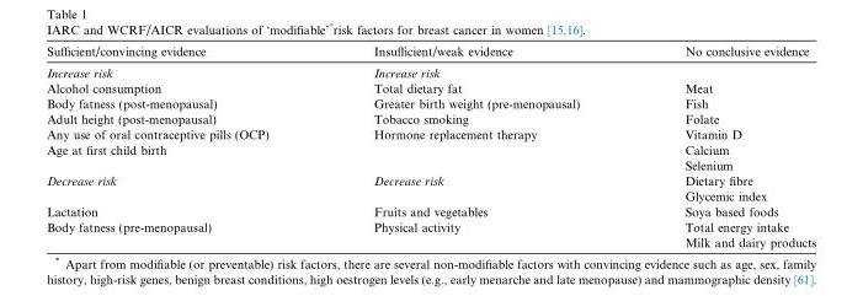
<table><thead><tr><td>Sufficient/convincing evidence</td><td>Insufficient/weak evidence</td><td>No conclusive evidence</td></tr></thead><tbody><tr><td>Increase risk</td><td>Increase risk</td><td></td></tr><tr><td>Alcohol consumption</td><td>Total dietary fat</td><td>Meat</td></tr><tr><td>Body fatness (post-menopausal)</td><td>Greater birth weight (pre-menopausal)</td><td>Fish</td></tr><tr><td>Adult height (post-menopausal)</td><td>Tobacco smoking</td><td>Folate</td></tr><tr><td>Any use of oral contraceptive pills (OCP)</td><td>Hormone replacement therapy</td><td>Vitamin D</td></tr><tr><td rowspan="2">Age at first child birth</td><td></td><td>Calcium</td></tr><tr><td></td><td>Selenium</td></tr><tr><td rowspan="2">Decrease risk</td><td>Decrease risk</td><td>Dietary fibre</td></tr><tr><td></td><td>Glycemic index</td></tr><tr><td>Lactation</td><td>Fruits and vegetables</td><td>Soya based foods</td></tr><tr><td rowspan="2">Body fatness (pre-menopausal)</td><td>Physical activity</td><td>Total energy intake</td></tr><tr><td></td><td>Milk and dairy products</td></tr></tbody></table>